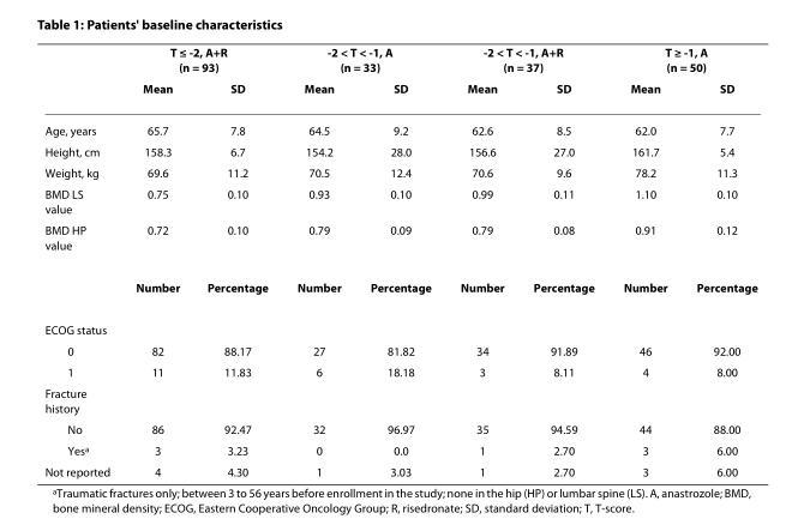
<table><thead><tr><td rowspan="2"></td><td colspan="2">T ≤ -2, A+R (n = 93)</td><td colspan="2">-2 &lt; T &lt; -1, A (n = 33)</td><td colspan="2">-2 &lt; T &lt; -1, A+R (n = 37)</td><td colspan="2">T ≥ -1, A (n = 50)</td></tr><tr><td>Mean</td><td>SD</td><td>Mean</td><td>SD</td><td>Mean</td><td>SD</td><td>Mean</td><td>SD</td></tr></thead><tbody><tr><td>Age, years</td><td>65.7</td><td>7.8</td><td>64.5</td><td>9.2</td><td>62.6</td><td>8.5</td><td>62.0</td><td>7.7</td></tr><tr><td>Height, cm</td><td>158.3</td><td>6.7</td><td>154.2</td><td>28.0</td><td>156.6</td><td>27.0</td><td>161.7</td><td>5.4</td></tr><tr><td>Weight, kg</td><td>69.6</td><td>11.2</td><td>70.5</td><td>12.4</td><td>70.6</td><td>9.6</td><td>78.2</td><td>11.3</td></tr><tr><td>BMD LS value</td><td>0.75</td><td>0.10</td><td>0.93</td><td>0.10</td><td>0.99</td><td>0.11</td><td>1.10</td><td>0.10</td></tr><tr><td rowspan="2">BMD HP value</td><td>0.72</td><td>0.10</td><td>0.79</td><td>0.09</td><td>0.79</td><td>0.08</td><td>0.91</td><td>0.12</td></tr><tr><td>Number</td><td>Percentage</td><td>Number</td><td>Percentage</td><td>Number</td><td>Percentage</td><td>Number</td><td>Percentage</td></tr><tr><td colspan="9">ECOG status</td></tr><tr><td>0</td><td>82</td><td>88.17</td><td>27</td><td>81.82</td><td>34</td><td>91.89</td><td>46</td><td>92.00</td></tr><tr><td>1</td><td>11</td><td>11.83</td><td>6</td><td>18.18</td><td>3</td><td>8.11</td><td>4</td><td>8.00</td></tr><tr><td colspan="9">Fracture history</td></tr><tr><td>No</td><td>86</td><td>92.47</td><td>32</td><td>96.97</td><td>35</td><td>94.59</td><td>44</td><td>88.00</td></tr><tr><td>Yes<sup>a</sup></td><td>3</td><td>3.23</td><td>0</td><td>0.0</td><td>1</td><td>2.70</td><td>3</td><td>6.00</td></tr><tr><td>Not reported</td><td>4</td><td>4.30</td><td>1</td><td>3.03</td><td>1</td><td>2.70</td><td>3</td><td>6.00</td></tr></tbody></table>